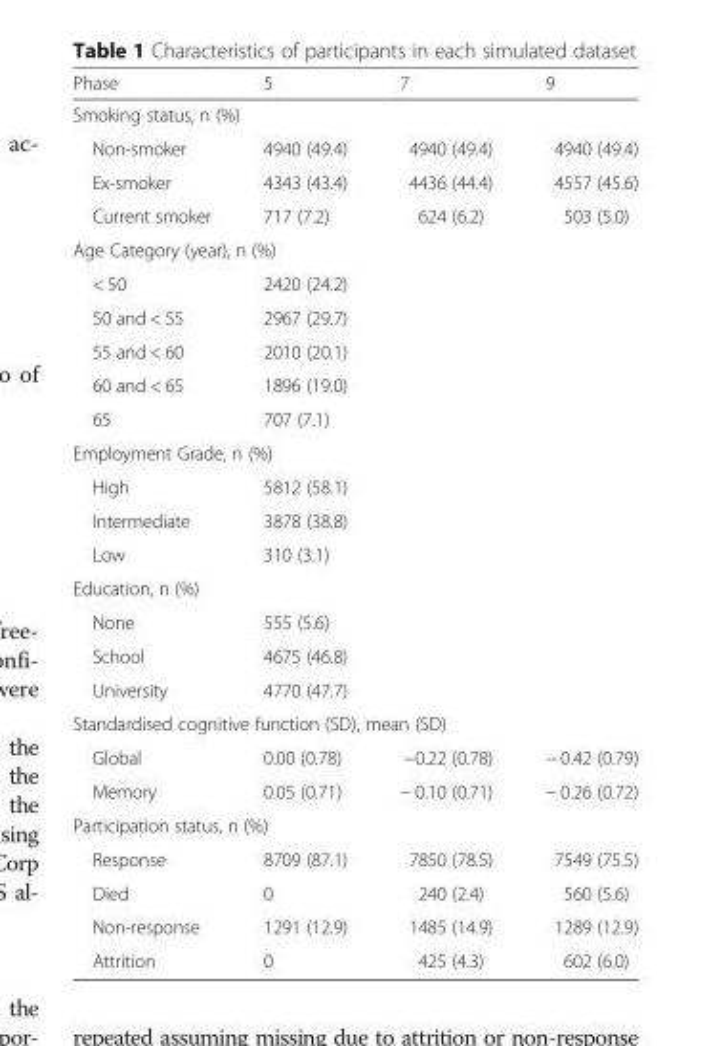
<table><thead><tr><td>Phase</td><td>5</td><td>7</td><td>9</td></tr></thead><tbody><tr><td colspan="4">Smoking status, n (%)</td></tr><tr><td>Non-smoker</td><td>4940 (49.4)</td><td>4940 (49.4)</td><td>4940 (49.4)</td></tr><tr><td>Ex-smoker</td><td>4343 (43.4)</td><td>4436 (44.4)</td><td>4557 (45.6)</td></tr><tr><td>Current smoker</td><td>717 (7.2)</td><td>624 (6.2)</td><td>503 (5.0)</td></tr><tr><td colspan="4">Age Category (year), n (%)</td></tr><tr><td>&lt; 50</td><td>2420 (24.2)</td><td></td><td></td></tr><tr><td>50 and &lt; 55</td><td>2967 (29.7)</td><td></td><td></td></tr><tr><td>55 and &lt; 60</td><td>2010 (20.1)</td><td></td><td></td></tr><tr><td>60 and &lt; 65</td><td>1896 (19.0)</td><td></td><td></td></tr><tr><td>65</td><td>707 (7.1)</td><td></td><td></td></tr><tr><td colspan="4">Employment Grade, n (%)</td></tr><tr><td>High</td><td>5812 (58.1)</td><td></td><td></td></tr><tr><td>Intermediate</td><td>3878 (38.8)</td><td></td><td></td></tr><tr><td>Low</td><td>310 (3.1)</td><td></td><td></td></tr><tr><td colspan="4">Education, n (%)</td></tr><tr><td>None</td><td>555 (5.6)</td><td></td><td></td></tr><tr><td>School</td><td>4675 (46.8)</td><td></td><td></td></tr><tr><td>University</td><td>4770 (47.7)</td><td></td><td></td></tr><tr><td colspan="4">Standardised cognitive function (SD), mean (SD)</td></tr><tr><td>Global</td><td>0.00 (0.78)</td><td>−0.22 (0.78)</td><td>− 0.42 (0.79)</td></tr><tr><td>Memory</td><td>0.05 (0.71)</td><td>− 0.10 (0.71)</td><td>− 0.26 (0.72)</td></tr><tr><td colspan="4">Participation status, n (%)</td></tr><tr><td>Response</td><td>8709 (87.1)</td><td>7850 (78.5)</td><td>7549 (75.5)</td></tr><tr><td>Died</td><td>0</td><td>240 (2.4)</td><td>560 (5.6)</td></tr><tr><td>Non-response</td><td>1291 (12.9)</td><td>1485 (14.9)</td><td>1289 (12.9)</td></tr><tr><td>Attrition</td><td>0</td><td>425 (4.3)</td><td>602 (6.0)</td></tr></tbody></table>